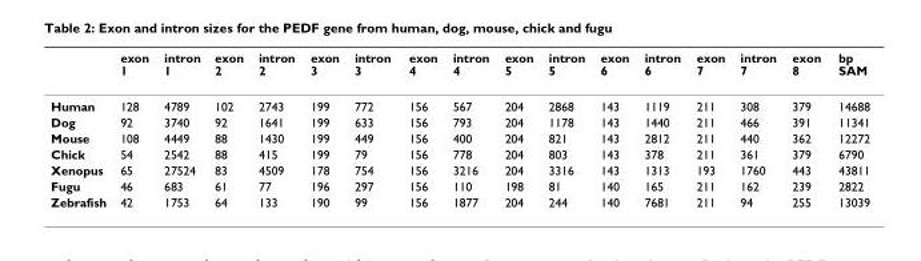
<table><thead><tr><td></td><td>exon 1</td><td>intron 1</td><td>exon 2</td><td>intron 2</td><td>exon 3</td><td>intron 3</td><td>exon 4</td><td>intron 4</td><td>exon 5</td><td>intron 5</td><td>exon 6</td><td>intron 6</td><td>exon 7</td><td>intron 7</td><td>exon 8</td><td>bp SAM</td></tr></thead><tbody><tr><td>Human</td><td>128</td><td>4789</td><td>102</td><td>2743</td><td>199</td><td>772</td><td>156</td><td>567</td><td>204</td><td>2868</td><td>143</td><td>1119</td><td>211</td><td>308</td><td>379</td><td>14688</td></tr><tr><td>Dog</td><td>92</td><td>3740</td><td>92</td><td>1641</td><td>199</td><td>633</td><td>156</td><td>793</td><td>204</td><td>1178</td><td>143</td><td>1440</td><td>211</td><td>466</td><td>391</td><td>11341</td></tr><tr><td>Mouse</td><td>108</td><td>4449</td><td>88</td><td>1430</td><td>199</td><td>449</td><td>156</td><td>400</td><td>204</td><td>821</td><td>143</td><td>2812</td><td>211</td><td>440</td><td>362</td><td>12272</td></tr><tr><td>Chick</td><td>54</td><td>2542</td><td>88</td><td>415</td><td>199</td><td>79</td><td>156</td><td>778</td><td>204</td><td>803</td><td>143</td><td>378</td><td>211</td><td>361</td><td>379</td><td>6790</td></tr><tr><td>Xenopus</td><td>65</td><td>27524</td><td>83</td><td>4509</td><td>178</td><td>754</td><td>156</td><td>3216</td><td>204</td><td>3316</td><td>143</td><td>1313</td><td>193</td><td>1760</td><td>443</td><td>43811</td></tr><tr><td>Fugu</td><td>46</td><td>683</td><td>61</td><td>77</td><td>196</td><td>297</td><td>156</td><td>110</td><td>198</td><td>81</td><td>140</td><td>165</td><td>211</td><td>162</td><td>239</td><td>2822</td></tr><tr><td>Zebrafish</td><td>42</td><td>1753</td><td>64</td><td>133</td><td>190</td><td>99</td><td>156</td><td>1877</td><td>204</td><td>244</td><td>140</td><td>7681</td><td>211</td><td>94</td><td>255</td><td>13039</td></tr></tbody></table>